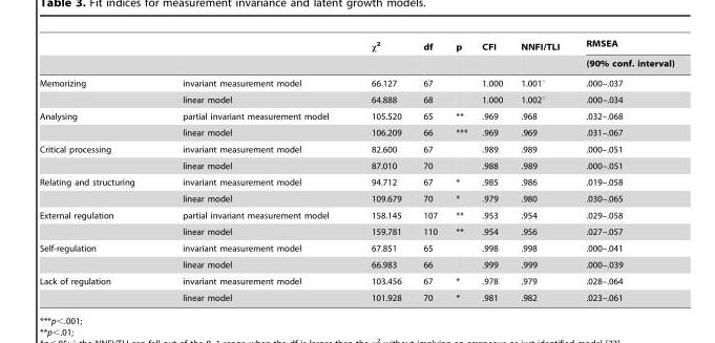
<table><thead><tr><td rowspan="2"></td><td rowspan="2"></td><td rowspan="2">x2</td><td rowspan="2">df</td><td rowspan="2">p</td><td rowspan="2">CFI</td><td rowspan="2">NNFI/TLI</td><td rowspan="2">RMSEA (90% conf. interval)</td></tr><tr></tr></thead><tbody><tr><td rowspan="2">Memorizing</td><td>invariant measurement model</td><td>66.127</td><td>67</td><td></td><td>1.000</td><td>1.001°</td><td>.000–.037</td></tr><tr><td>linear model</td><td>64.888</td><td>68</td><td></td><td>1.000</td><td>1.002°</td><td>.000–.034</td></tr><tr><td rowspan="2">Analysing</td><td>partial invariant measurement model</td><td>105.520</td><td>65</td><td>**</td><td>.969</td><td>.968</td><td>.032–.068</td></tr><tr><td>linear model</td><td>106.209</td><td>66</td><td>***</td><td>.969</td><td>.969</td><td>.031–.067</td></tr><tr><td rowspan="2">Critical processing</td><td>invariant measurement model</td><td>82.600</td><td>67</td><td></td><td>.989</td><td>.989</td><td>.000–.051</td></tr><tr><td>linear model</td><td>87.010</td><td>70</td><td></td><td>.988</td><td>.989</td><td>.000–.051</td></tr><tr><td rowspan="2">Relating and structuring</td><td>invariant measurement model</td><td>94.712</td><td>67</td><td>*</td><td>.985</td><td>.986</td><td>.019–.058</td></tr><tr><td>linear model</td><td>109.679</td><td>70</td><td>*</td><td>.979</td><td>.980</td><td>.030–.065</td></tr><tr><td rowspan="2">External regulation</td><td>partial invariant measurement model</td><td>158.145</td><td>107</td><td>**</td><td>.953</td><td>.954</td><td>.029–.058</td></tr><tr><td>linear model</td><td>159.781</td><td>110</td><td>**</td><td>.954</td><td>.956</td><td>.027–.057</td></tr><tr><td rowspan="2">Self-regulation</td><td>invariant measurement model</td><td>67.851</td><td>65</td><td></td><td>.998</td><td>.998</td><td>.000–.041</td></tr><tr><td>linear model</td><td>66.983</td><td>66</td><td></td><td>.999</td><td>.999</td><td>.000–.039</td></tr><tr><td rowspan="2">Lack of regulation</td><td>invariant measurement model</td><td>103.456</td><td>67</td><td>*</td><td>.978</td><td>.979</td><td>.028–.064</td></tr><tr><td>linear model</td><td>101.928</td><td>70</td><td>*</td><td>.981</td><td>.982</td><td>.023–.061</td></tr></tbody></table>